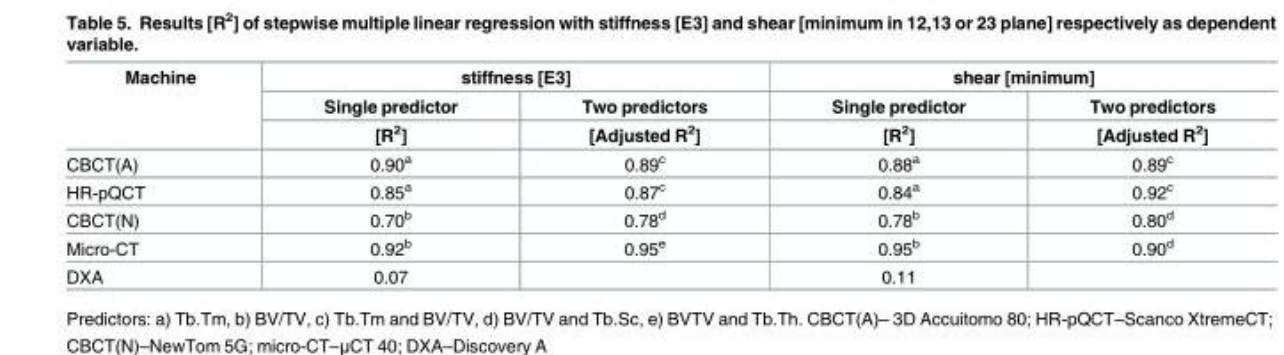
<table><thead><tr><td rowspan="3">Machine</td><td colspan="2">stiffness [E3]</td><td colspan="2">shear [minimum]</td></tr><tr><td rowspan="2">Single predictor [R<sup>2</sup>]</td><td rowspan="2">Two predictors [Adjusted R<sup>2</sup>]</td><td rowspan="2">Single predictor [R<sup>2</sup>]</td><td rowspan="2">Two predictors [Adjusted R<sup>2</sup>]</td></tr><tr></tr></thead><tbody><tr><td>CBCT(A)</td><td>0.90<sup>a</sup></td><td>0.89<sup>c</sup></td><td>0.88<sup>a</sup></td><td>0.89<sup>c</sup></td></tr><tr><td>HR-pQCT</td><td>0.85<sup>a</sup></td><td>0.87<sup>c</sup></td><td>0.84<sup>a</sup></td><td>0.92<sup>c</sup></td></tr><tr><td>CBCT(N)</td><td>0.70<sup>b</sup></td><td>0.78<sup>d</sup></td><td>0.78<sup>b</sup></td><td>0.80<sup>d</sup></td></tr><tr><td>Micro-CT</td><td>0.92<sup>b</sup></td><td>0.95<sup>e</sup></td><td>0.95<sup>b</sup></td><td>0.90<sup>d</sup></td></tr><tr><td>DXA</td><td>0.07</td><td></td><td>0.11</td><td></td></tr></tbody></table>